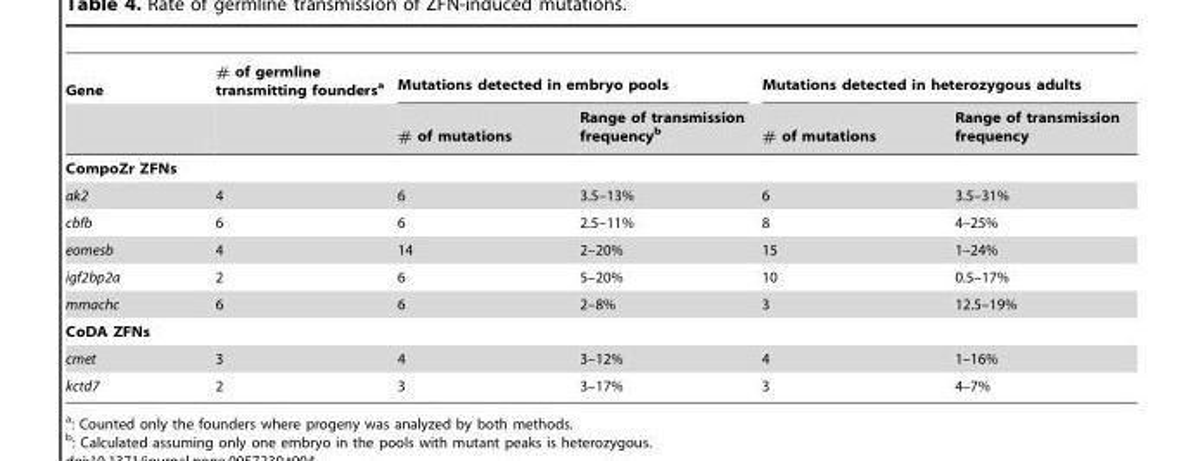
<table><thead><tr><td rowspan="2">Gene</td><td rowspan="2"># of germline transmitting founders<sup>a</sup></td><td colspan="2">Mutations detected in embryo pools</td><td colspan="2">Mutations detected in heterozygous adults</td></tr><tr><td># of mutations</td><td>Range of transmission frequency<sup>b</sup></td><td># of mutations</td><td>Range of transmission frequency</td></tr></thead><tbody><tr><td colspan="6">CompoZr ZFNs</td></tr><tr><td>ak2</td><td>4</td><td>6</td><td>3.5–13%</td><td>6</td><td>3.5–31%</td></tr><tr><td>cbfb</td><td>6</td><td>6</td><td>2.5–11%</td><td>8</td><td>4–25%</td></tr><tr><td>eomesb</td><td>4</td><td>14</td><td>2–20%</td><td>15</td><td>1–24%</td></tr><tr><td>igf2bp2a</td><td>2</td><td>6</td><td>5–20%</td><td>10</td><td>0.5–17%</td></tr><tr><td>mmachc</td><td>6</td><td>6</td><td>2–8%</td><td>3</td><td>12.5–19%</td></tr><tr><td colspan="6">CoDA ZFNs</td></tr><tr><td>cmet</td><td>3</td><td>4</td><td>3–12%</td><td>4</td><td>1–16%</td></tr><tr><td>kctd7</td><td>2</td><td>3</td><td>3–17%</td><td>3</td><td>4–7%</td></tr></tbody></table>